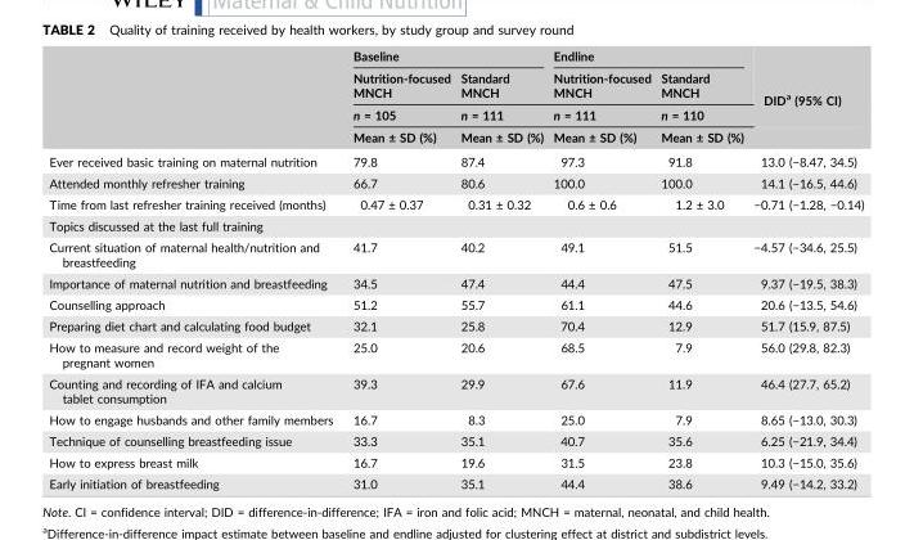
<table><thead><tr><td rowspan="4"></td><td colspan="2">Baseline</td><td colspan="2">Endline</td><td rowspan="4">DID<sup>a</sup> (95% CI)</td></tr><tr><td rowspan="3">Nutrition‐focused MNCH n = 105 Mean ± SD (%)</td><td rowspan="3">Standard MNCH n = 111 Mean ± SD (%)</td><td rowspan="3">Nutrition‐focused MNCH n = 111 Mean ± SD (%)</td><td rowspan="3">Standard MNCH n = 110 Mean ± SD (%)</td></tr><tr></tr><tr></tr></thead><tbody><tr><td>Ever received basic training on maternal nutrition</td><td>79.8</td><td>87.4</td><td>97.3</td><td>91.8</td><td>13.0 (−8.47, 34.5)</td></tr><tr><td>Attended monthly refresher training</td><td>66.7</td><td>80.6</td><td>100.0</td><td>100.0</td><td>14.1 (−16.5, 44.6)</td></tr><tr><td>Time from last refresher training received (months)</td><td>0.47 ± 0.37</td><td>0.31 ± 0.32</td><td>0.6 ± 0.6</td><td>1.2 ± 3.0</td><td>−0.71 (−1.28, −0.14)</td></tr><tr><td colspan="6">Topics discussed at the last full training</td></tr><tr><td>Current situation of maternal health/nutrition and breastfeeding</td><td>41.7</td><td>40.2</td><td>49.1</td><td>51.5</td><td>−4.57 (−34.6, 25.5)</td></tr><tr><td>Importance of maternal nutrition and breastfeeding</td><td>34.5</td><td>47.4</td><td>44.4</td><td>47.5</td><td>9.37 (−19.5, 38.3)</td></tr><tr><td>Counselling approach</td><td>51.2</td><td>55.7</td><td>61.1</td><td>44.6</td><td>20.6 (−13.5, 54.6)</td></tr><tr><td>Preparing diet chart and calculating food budget</td><td>32.1</td><td>25.8</td><td>70.4</td><td>12.9</td><td>51.7 (15.9, 87.5)</td></tr><tr><td>How to measure and record weight of the pregnant women</td><td>25.0</td><td>20.6</td><td>68.5</td><td>7.9</td><td>56.0 (29.8, 82.3)</td></tr><tr><td>Counting and recording of IFA and calcium tablet consumption</td><td>39.3</td><td>29.9</td><td>67.6</td><td>11.9</td><td>46.4 (27.7, 65.2)</td></tr><tr><td>How to engage husbands and other family members</td><td>16.7</td><td>8.3</td><td>25.0</td><td>7.9</td><td>8.65 (−13.0, 30.3)</td></tr><tr><td>Technique of counselling breastfeeding issue</td><td>33.3</td><td>35.1</td><td>40.7</td><td>35.6</td><td>6.25 (−21.9, 34.4)</td></tr><tr><td>How to express breast milk</td><td>16.7</td><td>19.6</td><td>31.5</td><td>23.8</td><td>10.3 (−15.0, 35.6)</td></tr><tr><td>Early initiation of breastfeeding</td><td>31.0</td><td>35.1</td><td>44.4</td><td>38.6</td><td>9.49 (−14.2, 33.2)</td></tr></tbody></table>